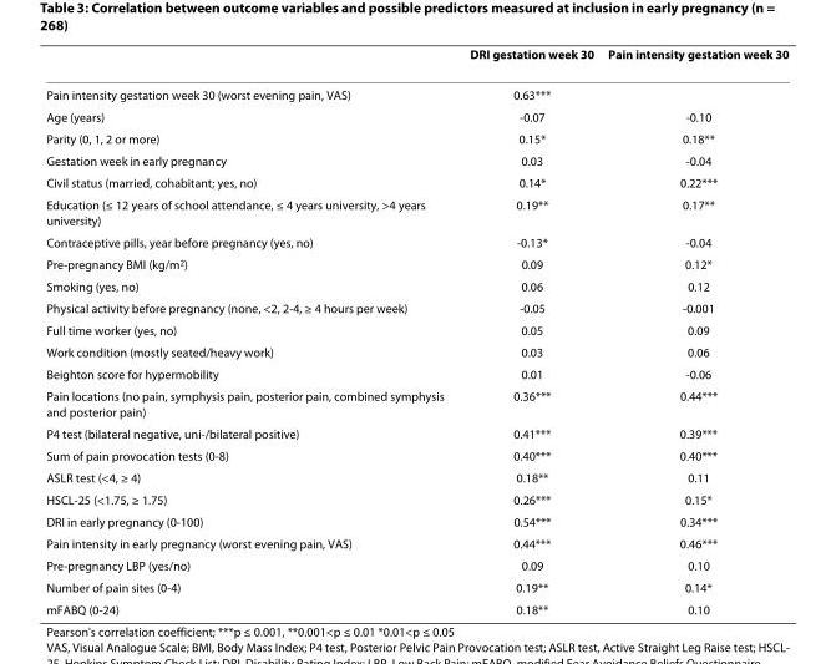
<table><thead><tr><td></td><td>DRI gestation week 30</td><td>Pain intensity gestation week 30</td></tr></thead><tbody><tr><td>Pain intensity gestation week 30 (worst evening pain, VAS)</td><td>0.63***</td><td></td></tr><tr><td>Age (years)</td><td>-0.07</td><td>-0.10</td></tr><tr><td>Parity (0, 1, 2 or more)</td><td>0.15*</td><td>0.18**</td></tr><tr><td>Gestation week in early pregnancy</td><td>0.03</td><td>-0.04</td></tr><tr><td>Civil status (married, cohabitant; yes, no)</td><td>0.14*</td><td>0.22***</td></tr><tr><td>Education (≤ 12 years of school attendance, ≤ 4 years university, &gt;4 years university)</td><td>0.19**</td><td>0.17**</td></tr><tr><td>Contraceptive pills, year before pregnancy (yes, no)</td><td>-0.13*</td><td>-0.04</td></tr><tr><td>Pre-pregnancy BMI (kg/m<sup>2</sup>)</td><td>0.09</td><td>0.12*</td></tr><tr><td>Smoking (yes, no)</td><td>0.06</td><td>0.12</td></tr><tr><td>Physical activity before pregnancy (none, &lt;2, 2-4, ≥ 4 hours per week)</td><td>-0.05</td><td>-0.001</td></tr><tr><td>Full time worker (yes, no)</td><td>0.05</td><td>0.09</td></tr><tr><td>Work condition (mostly seated/heavy work)</td><td>0.03</td><td>0.06</td></tr><tr><td>Beighton score for hypermobility</td><td>0.01</td><td>-0.06</td></tr><tr><td>Pain locations (no pain, symphysis pain, posterior pain, combined symphysis and posterior pain)</td><td>0.36***</td><td>0.44***</td></tr><tr><td>P4 test (bilateral negative, uni-/bilateral positive)</td><td>0.41***</td><td>0.39***</td></tr><tr><td>Sum of pain provocation tests (0-8)</td><td>0.40***</td><td>0.40***</td></tr><tr><td>ASLR test (&lt;4, ≥ 4)</td><td>0.18**</td><td>0.11</td></tr><tr><td>HSCL-25 (&lt;1.75, ≥ 1.75)</td><td>0.26***</td><td>0.15*</td></tr><tr><td>DRI in early pregnancy (0-100)</td><td>0.54***</td><td>0.34***</td></tr><tr><td>Pain intensity in early pregnancy (worst evening pain, VAS)</td><td>0.44***</td><td>0.46***</td></tr><tr><td>Pre-pregnancy LBP (yes/no)</td><td>0.09</td><td>0.10</td></tr><tr><td>Number of pain sites (0-4)</td><td>0.19**</td><td>0.14*</td></tr><tr><td>mFABQ (0-24)</td><td>0.18**</td><td>0.10</td></tr></tbody></table>